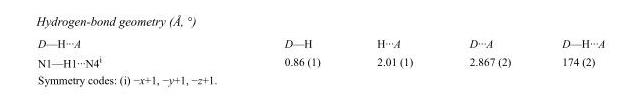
<table><tbody><tr><td>D—H···A</td><td>D—H</td><td>H···A</td><td>D···A</td><td>D—H···A</td></tr><tr><td>N1—H1···N4<sup>i</sup></td><td>0.86 (1)</td><td>2.01 (1)</td><td>2.867 (2)</td><td>174 (2)</td></tr></tbody></table>